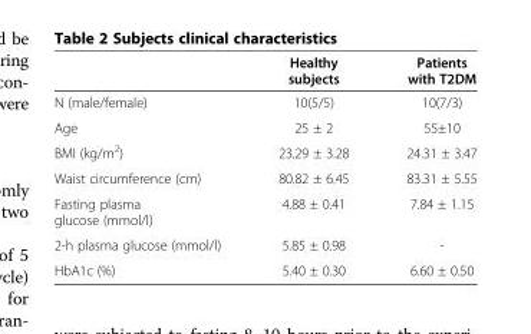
<table><thead><tr><td></td><td>Healthy subjects</td><td>Patients with T2DM</td></tr></thead><tbody><tr><td>N (male/female)</td><td>10(5/5)</td><td>10(7/3)</td></tr><tr><td>Age</td><td>25 ± 2</td><td>55±10</td></tr><tr><td>BMI (kg/m<sup>2</sup>)</td><td>23.29 ± 3.28</td><td>24.31 ± 3.47</td></tr><tr><td>Waist circumference (cm)</td><td>80.82 ± 6.45</td><td>83.31 ± 5.55</td></tr><tr><td>Fasting plasma glucose (mmol/l)</td><td>4.88 ± 0.41</td><td>7.84 ± 1.15</td></tr><tr><td>2-h plasma glucose (mmol/l)</td><td>5.85 ± 0.98</td><td>-</td></tr><tr><td>HbA1c (%)</td><td>5.40 ± 0.30</td><td>6.60 ± 0.50</td></tr></tbody></table>